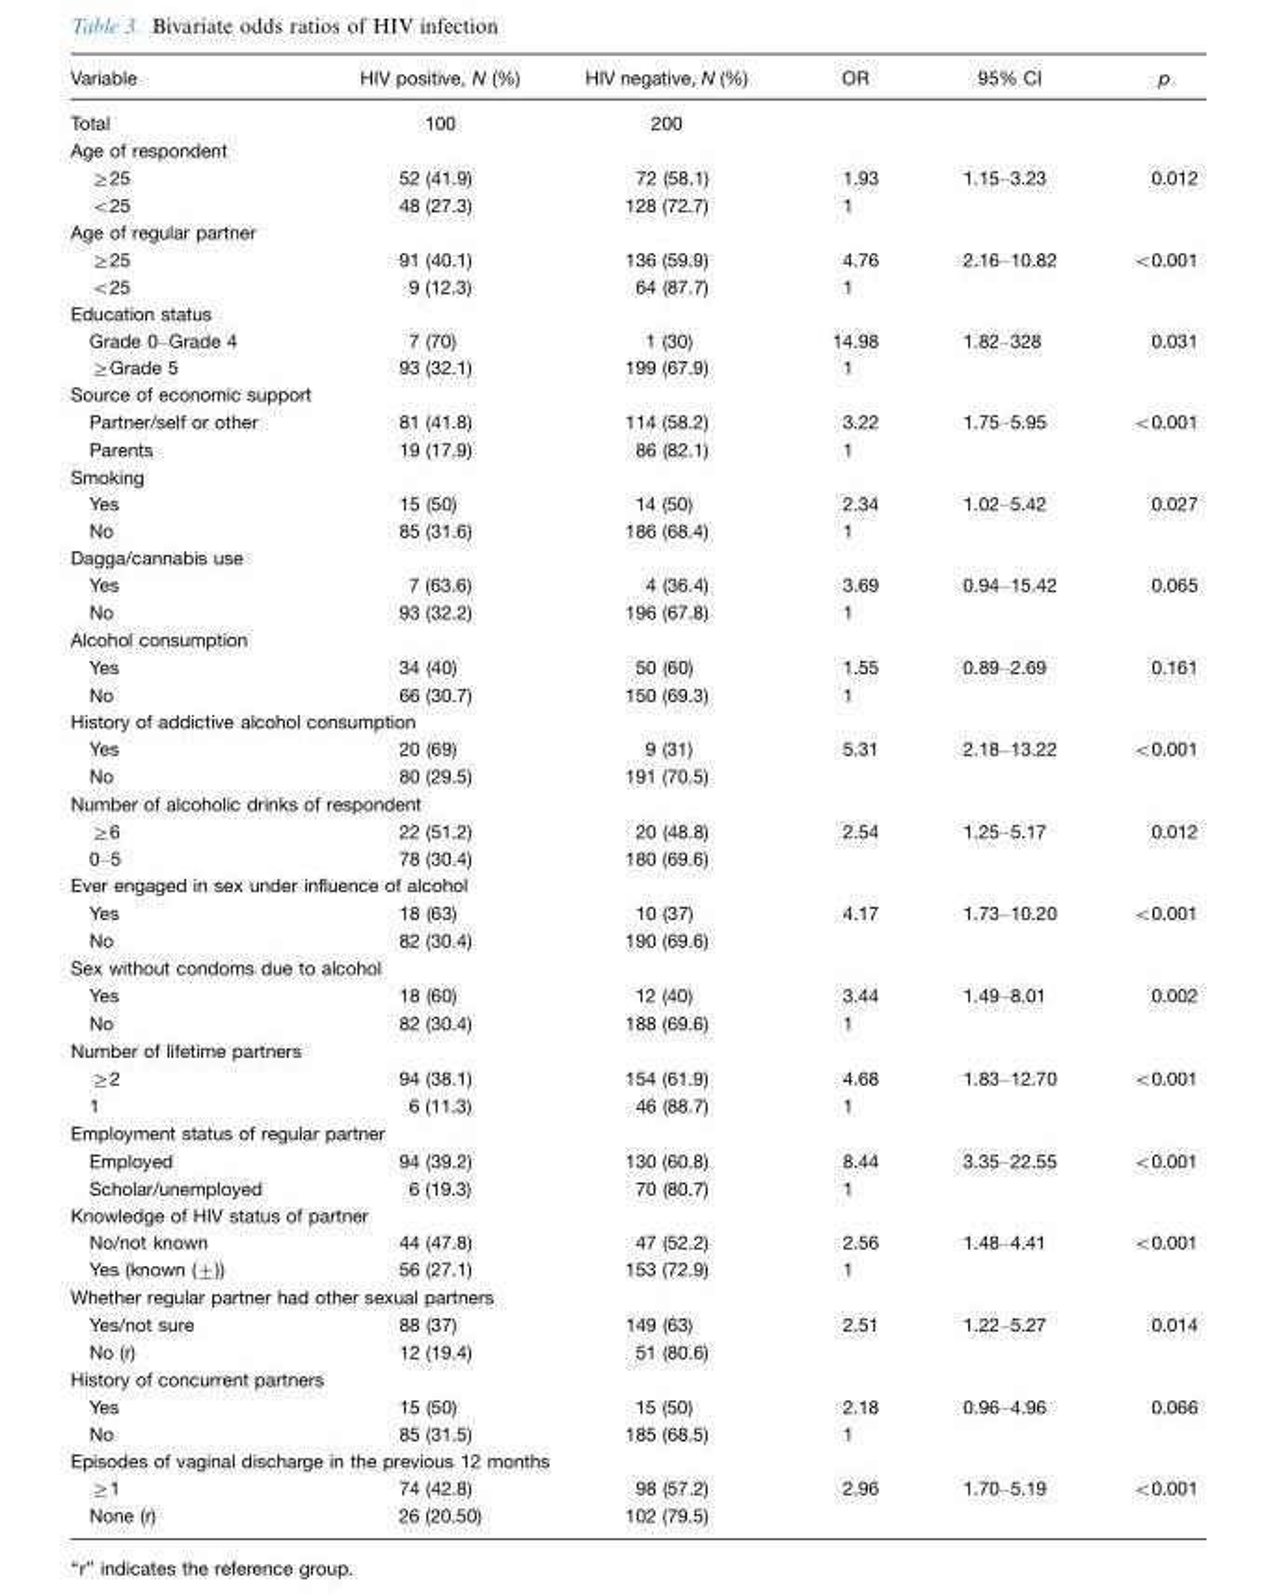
<table><thead><tr><td>Variable</td><td>HIV positive, N (%)</td><td>HIV negative, N (%)</td><td>OR</td><td>95% CI</td><td>p</td></tr></thead><tbody><tr><td>Total</td><td>100</td><td>200</td><td></td><td></td><td></td></tr><tr><td colspan="6">Age of respondent</td></tr><tr><td>≥25</td><td>52 (41.9)</td><td>72 (58.1)</td><td>1.93</td><td>1.15–3.23</td><td>0.012</td></tr><tr><td>&lt;25</td><td>48 (27.3)</td><td>128 (72.7)</td><td>1</td><td></td><td></td></tr><tr><td colspan="6">Age of regular partner</td></tr><tr><td>≥25</td><td>91 (40.1)</td><td>136 (59.9)</td><td>4.76</td><td>2.16–10.82</td><td>&lt;0.001</td></tr><tr><td>&lt;25</td><td>9 (12.3)</td><td>64 (87.7)</td><td>1</td><td></td><td></td></tr><tr><td colspan="6">Education status</td></tr><tr><td>Grade 0–Grade 4</td><td>7 (70)</td><td>1 (30)</td><td>14.98</td><td>1.82–328</td><td>0.031</td></tr><tr><td>≥Grade 5</td><td>93 (32.1)</td><td>199 (67.9)</td><td>1</td><td></td><td></td></tr><tr><td colspan="6">Source of economic support</td></tr><tr><td>Partner/self or other</td><td>81 (41.8)</td><td>114 (58.2)</td><td>3.22</td><td>1.75–5.95</td><td>&lt;0.001</td></tr><tr><td>Parents</td><td>19 (17.9)</td><td>86 (82.1)</td><td>1</td><td></td><td></td></tr><tr><td colspan="6">Smoking</td></tr><tr><td>Yes</td><td>15 (50)</td><td>14 (50)</td><td>2.34</td><td>1.02–5.42</td><td>0.027</td></tr><tr><td>No</td><td>85 (31.6)</td><td>186 (68.4)</td><td>1</td><td></td><td></td></tr><tr><td colspan="6">Dagga/cannabis use</td></tr><tr><td>Yes</td><td>7 (63.6)</td><td>4 (36.4)</td><td>3.69</td><td>0.94–15.42</td><td>0.065</td></tr><tr><td>No</td><td>93 (32.2)</td><td>196 (67.8)</td><td>1</td><td></td><td></td></tr><tr><td colspan="6">Alcohol consumption</td></tr><tr><td>Yes</td><td>34 (40)</td><td>50 (60)</td><td>1.55</td><td>0.89–2.69</td><td>0.161</td></tr><tr><td>No</td><td>66 (30.7)</td><td>150 (69.3)</td><td>1</td><td></td><td></td></tr><tr><td colspan="6">History of addictive alcohol consumption</td></tr><tr><td>Yes</td><td>20 (69)</td><td>9 (31)</td><td>5.31</td><td>2.18–13.22</td><td>&lt;0.001</td></tr><tr><td>No</td><td>80 (29.5)</td><td>191 (70.5)</td><td></td><td></td><td></td></tr><tr><td colspan="6">Number of alcoholic drinks of respondent</td></tr><tr><td>≥6</td><td>22 (51.2)</td><td>20 (48.8)</td><td>2.54</td><td>1.25–5.17</td><td>0.012</td></tr><tr><td>0–5</td><td>78 (30.4)</td><td>180 (69.6)</td><td></td><td></td><td></td></tr><tr><td colspan="6">Ever engaged in sex under influence of alcohol</td></tr><tr><td>Yes</td><td>18 (63)</td><td>10 (37)</td><td>4.17</td><td>1.73–10.20</td><td>&lt;0.001</td></tr><tr><td>No</td><td>82 (30.4)</td><td>190 (69.6)</td><td></td><td></td><td></td></tr><tr><td colspan="6">Sex without condoms due to alcohol</td></tr><tr><td>Yes</td><td>18 (60)</td><td>12 (40)</td><td>3.44</td><td>1.49–8.01</td><td>0.002</td></tr><tr><td>No</td><td>82 (30.4)</td><td>188 (69.6)</td><td>1</td><td></td><td></td></tr><tr><td colspan="6">Number of lifetime partners</td></tr><tr><td>≥2</td><td>94 (38.1)</td><td>154 (61.9)</td><td>4.68</td><td>1.83–12.70</td><td>&lt;0.001</td></tr><tr><td>1</td><td>6 (11.3)</td><td>46 (88.7)</td><td>1</td><td></td><td></td></tr><tr><td colspan="6">Employment status of regular partner</td></tr><tr><td>Employed</td><td>94 (39.2)</td><td>130 (60.8)</td><td>8.44</td><td>3.35–22.55</td><td>&lt;0.001</td></tr><tr><td>Scholar/unemployed</td><td>6 (19.3)</td><td>70 (80.7)</td><td>1</td><td></td><td></td></tr><tr><td colspan="6">Knowledge of HIV status of partner</td></tr><tr><td>No/not known</td><td>44 (47.8)</td><td>47 (52.2)</td><td>2.56</td><td>1.48–4.41</td><td>&lt;0.001</td></tr><tr><td>Yes (known (±))</td><td>56 (27.1)</td><td>153 (72.9)</td><td>1</td><td></td><td></td></tr><tr><td colspan="6">Whether regular partner had other sexual partners</td></tr><tr><td>Yes/not sure</td><td>88 (37)</td><td>149 (63)</td><td>2.51</td><td>1.22–5.27</td><td>0.014</td></tr><tr><td>No (r)</td><td>12 (19.4)</td><td>51 (80.6)</td><td></td><td></td><td></td></tr><tr><td colspan="6">History of concurrent partners</td></tr><tr><td>Yes</td><td>15 (50)</td><td>15 (50)</td><td>2.18</td><td>0.96–4.96</td><td>0.066</td></tr><tr><td>No</td><td>85 (31.5)</td><td>185 (68.5)</td><td>1</td><td></td><td></td></tr><tr><td colspan="6">Episodes of vaginal discharge in the previous 12 months</td></tr><tr><td>≥1</td><td>74 (42.8)</td><td>98 (57.2)</td><td>2.96</td><td>1.70–5.19</td><td>&lt;0.001</td></tr><tr><td>None (r)</td><td>26 (20.50)</td><td>102 (79.5)</td><td></td><td></td><td></td></tr></tbody></table>